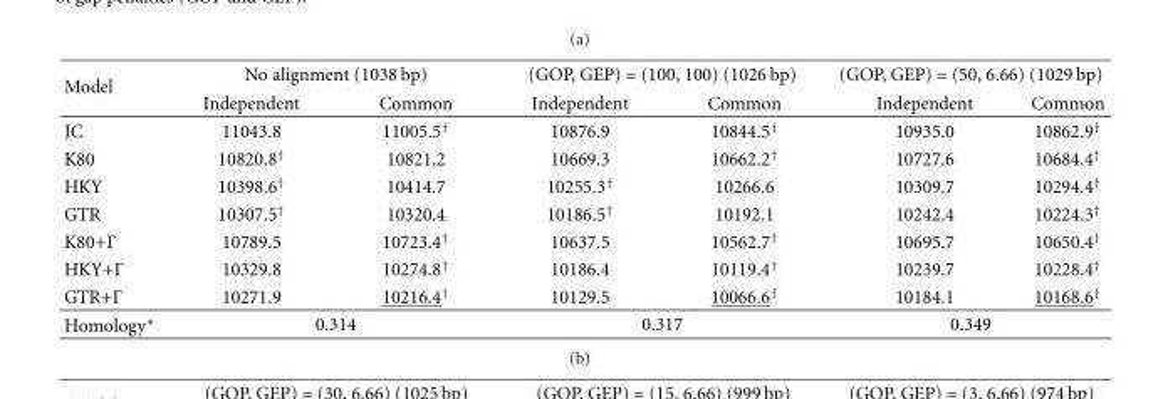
<table><thead><tr><td rowspan="2">Model</td><td colspan="2">No alignment (1038 bp)</td><td colspan="2">(GOP, GEP) = (100, 100) (1026 bp)</td><td colspan="2">(GOP, GEP) = (50, 6.66) (1029 bp)</td></tr><tr><td>Independent</td><td>Common</td><td>Independent</td><td>Common</td><td>Independent</td><td>Common</td></tr></thead><tbody><tr><td>JC</td><td>11043.8</td><td>11005.5<sup>†</sup></td><td>10876.9</td><td>10844.5<sup>†</sup></td><td>10935.0</td><td>10862.9<sup>†</sup></td></tr><tr><td>K80</td><td>10820.8<sup>†</sup></td><td>10821.2</td><td>10669.3</td><td>10662.2<sup>†</sup></td><td>10727.6</td><td>10684.4<sup>†</sup></td></tr><tr><td>HKY</td><td>10398.6<sup>†</sup></td><td>10414.7</td><td>10255.3<sup>†</sup></td><td>10266.6</td><td>10309.7</td><td>10294.4<sup>†</sup></td></tr><tr><td>GTR</td><td>10307.5<sup>†</sup></td><td>10320.4</td><td>10186.5<sup>†</sup></td><td>10192.1</td><td>10242.4</td><td>10224.3<sup>†</sup></td></tr><tr><td>K80+Γ</td><td>10789.5</td><td>10723.4<sup>†</sup></td><td>10637.5</td><td>10562.7<sup>†</sup></td><td>10695.7</td><td>10650.4<sup>†</sup></td></tr><tr><td>HKY+Γ</td><td>10329.8</td><td>10274.8<sup>†</sup></td><td>10186.4</td><td>10119.4<sup>†</sup></td><td>10239.7</td><td>10228.4<sup>†</sup></td></tr><tr><td>GTR+Γ</td><td>10271.9</td><td>10216.4<sup>†</sup></td><td>10129.5</td><td>10066.6<sup>†</sup></td><td>10184.1</td><td>10168.6<sup>†</sup></td></tr><tr><td>Homology∗</td><td colspan="2">0.314</td><td colspan="2">0.317</td><td colspan="2">0.349</td></tr></tbody></table>